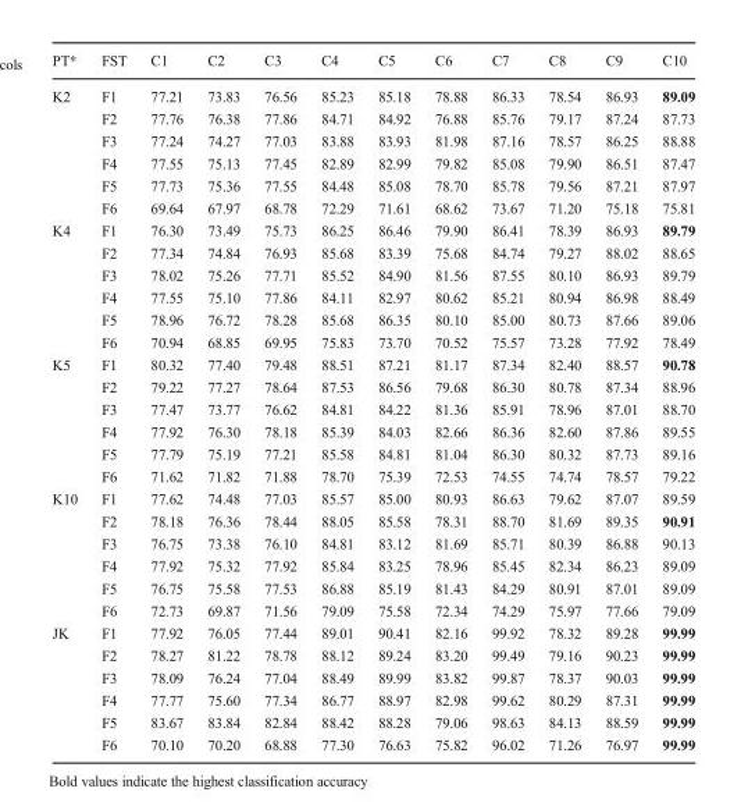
<table><thead><tr><td>PT*</td><td>FST</td><td>C1</td><td>C2</td><td>C3</td><td>C4</td><td>C5</td><td>C6</td><td>C7</td><td>C8</td><td>C9</td><td>C10</td></tr></thead><tbody><tr><td rowspan="6">K2</td><td>F1</td><td>77.21</td><td>73.83</td><td>76.56</td><td>85.23</td><td>85.18</td><td>78.88</td><td>86.33</td><td>78.54</td><td>86.93</td><td>89.09</td></tr><tr><td>F2</td><td>77.76</td><td>76.38</td><td>77.86</td><td>84.71</td><td>84.92</td><td>76.88</td><td>85.76</td><td>79.17</td><td>87.24</td><td>87.73</td></tr><tr><td>F3</td><td>77.24</td><td>74.27</td><td>77.03</td><td>83.88</td><td>83.93</td><td>81.98</td><td>87.16</td><td>78.57</td><td>86.25</td><td>88.88</td></tr><tr><td>F4</td><td>77.55</td><td>75.13</td><td>77.45</td><td>82.89</td><td>82.99</td><td>79.82</td><td>85.08</td><td>79.90</td><td>86.51</td><td>87.47</td></tr><tr><td>F5</td><td>77.73</td><td>75.36</td><td>77.55</td><td>84.48</td><td>85.08</td><td>78.70</td><td>85.78</td><td>79.56</td><td>87.21</td><td>87.97</td></tr><tr><td>F6</td><td>69.64</td><td>67.97</td><td>68.78</td><td>72.29</td><td>71.61</td><td>68.62</td><td>73.67</td><td>71.20</td><td>75.18</td><td>75.81</td></tr><tr><td rowspan="6">K4</td><td>F1</td><td>76.30</td><td>73.49</td><td>75.73</td><td>86.25</td><td>86.46</td><td>79.90</td><td>86.41</td><td>78.39</td><td>86.93</td><td>89.79</td></tr><tr><td>F2</td><td>77.34</td><td>74.84</td><td>76.93</td><td>85.68</td><td>83.39</td><td>75.68</td><td>84.74</td><td>79.27</td><td>88.02</td><td>88.65</td></tr><tr><td>F3</td><td>78.02</td><td>75.26</td><td>77.71</td><td>85.52</td><td>84.90</td><td>81.56</td><td>87.55</td><td>80.10</td><td>86.93</td><td>89.79</td></tr><tr><td>F4</td><td>77.55</td><td>75.10</td><td>77.86</td><td>84.11</td><td>82.97</td><td>80.62</td><td>85.21</td><td>80.94</td><td>86.98</td><td>88.49</td></tr><tr><td>F5</td><td>78.96</td><td>76.72</td><td>78.28</td><td>85.68</td><td>86.35</td><td>80.10</td><td>85.00</td><td>80.73</td><td>87.66</td><td>89.06</td></tr><tr><td>F6</td><td>70.94</td><td>68.85</td><td>69.95</td><td>75.83</td><td>73.70</td><td>70.52</td><td>75.57</td><td>73.28</td><td>77.92</td><td>78.49</td></tr><tr><td rowspan="6">K5</td><td>F1</td><td>80.32</td><td>77.40</td><td>79.48</td><td>88.51</td><td>87.21</td><td>81.17</td><td>87.34</td><td>82.40</td><td>88.57</td><td>90.78</td></tr><tr><td>F2</td><td>79.22</td><td>77.27</td><td>78.64</td><td>87.53</td><td>86.56</td><td>79.68</td><td>86.30</td><td>80.78</td><td>87.34</td><td>88.96</td></tr><tr><td>F3</td><td>77.47</td><td>73.77</td><td>76.62</td><td>84.81</td><td>84.22</td><td>81.36</td><td>85.91</td><td>78.96</td><td>87.01</td><td>88.70</td></tr><tr><td>F4</td><td>77.92</td><td>76.30</td><td>78.18</td><td>85.39</td><td>84.03</td><td>82.66</td><td>86.36</td><td>82.60</td><td>87.86</td><td>89.55</td></tr><tr><td>F5</td><td>77.79</td><td>75.19</td><td>77.21</td><td>85.58</td><td>84.81</td><td>81.04</td><td>86.30</td><td>80.32</td><td>87.73</td><td>89.16</td></tr><tr><td>F6</td><td>71.62</td><td>71.82</td><td>71.88</td><td>78.70</td><td>75.39</td><td>72.53</td><td>74.55</td><td>74.74</td><td>78.57</td><td>79.22</td></tr><tr><td rowspan="6">K10</td><td>F1</td><td>77.62</td><td>74.48</td><td>77.03</td><td>85.57</td><td>85.00</td><td>80.93</td><td>86.63</td><td>79.62</td><td>87.07</td><td>89.59</td></tr><tr><td>F2</td><td>78.18</td><td>76.36</td><td>78.44</td><td>88.05</td><td>85.58</td><td>78.31</td><td>88.70</td><td>81.69</td><td>89.35</td><td>90.91</td></tr><tr><td>F3</td><td>76.75</td><td>73.38</td><td>76.10</td><td>84.81</td><td>83.12</td><td>81.69</td><td>85.71</td><td>80.39</td><td>86.88</td><td>90.13</td></tr><tr><td>F4</td><td>77.92</td><td>75.32</td><td>77.92</td><td>85.84</td><td>83.25</td><td>78.96</td><td>85.45</td><td>82.34</td><td>86.23</td><td>89.09</td></tr><tr><td>F5</td><td>76.75</td><td>75.58</td><td>77.53</td><td>86.88</td><td>85.19</td><td>81.43</td><td>84.29</td><td>80.91</td><td>87.01</td><td>89.09</td></tr><tr><td>F6</td><td>72.73</td><td>69.87</td><td>71.56</td><td>79.09</td><td>75.58</td><td>72.34</td><td>74.29</td><td>75.97</td><td>77.66</td><td>79.09</td></tr><tr><td rowspan="6">JK</td><td>F1</td><td>77.92</td><td>76.05</td><td>77.44</td><td>89.01</td><td>90.41</td><td>82.16</td><td>99.92</td><td>78.32</td><td>89.28</td><td>99.99</td></tr><tr><td>F2</td><td>78.27</td><td>81.22</td><td>78.78</td><td>88.12</td><td>89.24</td><td>83.20</td><td>99.49</td><td>79.16</td><td>90.23</td><td>99.99</td></tr><tr><td>F3</td><td>78.09</td><td>76.24</td><td>77.04</td><td>88.49</td><td>89.99</td><td>83.82</td><td>99.87</td><td>78.37</td><td>90.03</td><td>99.99</td></tr><tr><td>F4</td><td>77.77</td><td>75.60</td><td>77.34</td><td>86.77</td><td>88.97</td><td>82.98</td><td>99.62</td><td>80.29</td><td>87.31</td><td>99.99</td></tr><tr><td>F5</td><td>83.67</td><td>83.84</td><td>82.84</td><td>88.42</td><td>88.28</td><td>79.06</td><td>98.63</td><td>84.13</td><td>88.59</td><td>99.99</td></tr><tr><td>F6</td><td>70.10</td><td>70.20</td><td>68.88</td><td>77.30</td><td>76.63</td><td>75.82</td><td>96.02</td><td>71.26</td><td>76.97</td><td>99.99</td></tr></tbody></table>